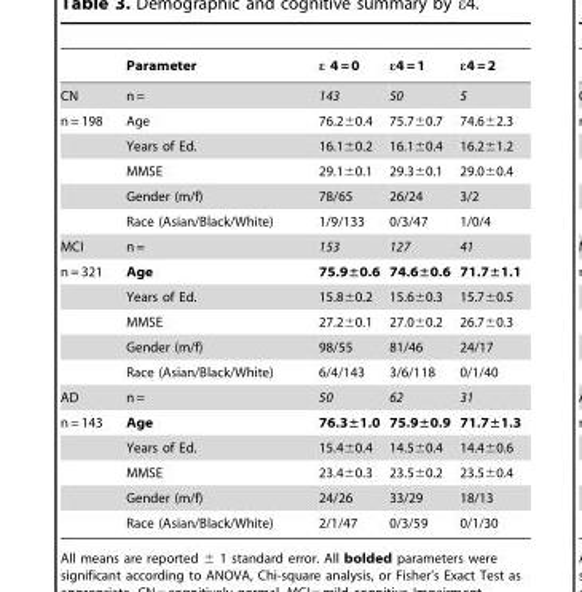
<table><thead><tr><td></td><td>Parameter</td><td>ε 4 = 0</td><td>ε4 = 1</td><td>ε4 = 2</td></tr></thead><tbody><tr><td>CN</td><td>n =</td><td>143</td><td>50</td><td>5</td></tr><tr><td rowspan="5">n = 198</td><td>Age</td><td>76.2±0.4</td><td>75.7±0.7</td><td>74.6±2.3</td></tr><tr><td>Years of Ed.</td><td>16.1±0.2</td><td>16.1±0.4</td><td>16.2±1.2</td></tr><tr><td>MMSE</td><td>29.1±0.1</td><td>29.3±0.1</td><td>29.0±0.4</td></tr><tr><td>Gender (m/f)</td><td>78/65</td><td>26/24</td><td>3/2</td></tr><tr><td>Race (Asian/Black/White)</td><td>1/9/133</td><td>0/3/47</td><td>1/0/4</td></tr><tr><td>MCI</td><td>n =</td><td>153</td><td>127</td><td>41</td></tr><tr><td rowspan="5">n = 321</td><td>Age</td><td>75.9±0.6</td><td>74.6±0.6</td><td>71.7±1.1</td></tr><tr><td>Years of Ed.</td><td>15.8±0.2</td><td>15.6±0.3</td><td>15.7±0.5</td></tr><tr><td>MMSE</td><td>27.2±0.1</td><td>27.0±0.2</td><td>26.7±0.3</td></tr><tr><td>Gender (m/f)</td><td>98/55</td><td>81/46</td><td>24/17</td></tr><tr><td>Race (Asian/Black/White)</td><td>6/4/143</td><td>3/6/118</td><td>0/1/40</td></tr><tr><td>AD</td><td>n =</td><td>50</td><td>62</td><td>31</td></tr><tr><td rowspan="5">n = 143</td><td>Age</td><td>76.3±1.0</td><td>75.9±0.9</td><td>71.7±1.3</td></tr><tr><td>Years of Ed.</td><td>15.4±0.4</td><td>14.5±0.4</td><td>14.4±0.6</td></tr><tr><td>MMSE</td><td>23.4±0.3</td><td>23.5±0.2</td><td>23.5±0.4</td></tr><tr><td>Gender (m/f)</td><td>24/26</td><td>33/29</td><td>18/13</td></tr><tr><td>Race (Asian/Black/White)</td><td>2/1/47</td><td>0/3/59</td><td>0/1/30</td></tr></tbody></table>